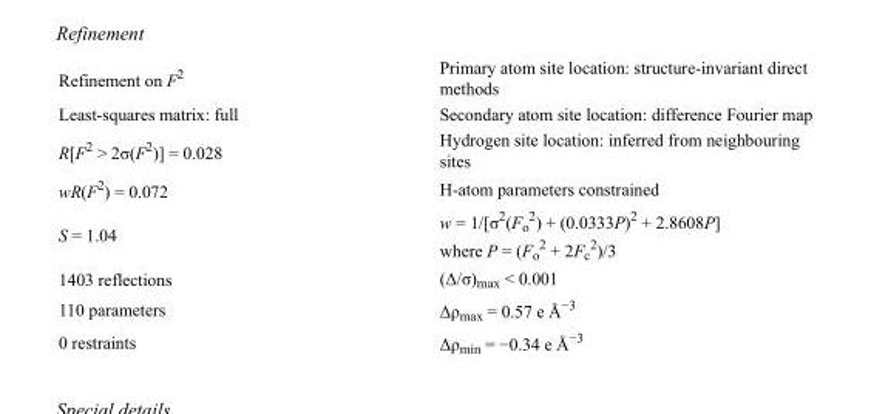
<table><tbody><tr><td>Refinement on F<sup>2</sup></td><td>Primary atom site location: structure-invariant direct methods</td></tr><tr><td>Least-squares matrix: full</td><td>Secondary atom site location: difference Fourier map</td></tr><tr><td>R[F<sup>2</sup> &gt; 2σ(F<sup>2</sup>)] = 0.028</td><td>Hydrogen site location: inferred from neighbouring sites</td></tr><tr><td>wR(F<sup>2</sup>) = 0.072</td><td>H-atom parameters constrained</td></tr><tr><td>S = 1.04</td><td>w = 1/[σ<sup>2</sup>(F<sub>o</sub> <sup>2</sup>) + (0.0333P)<sup>2</sup> + 2.8608P] where P = (F<sub>o</sub> <sup>2</sup> + 2F<sub>c</sub> <sup>2</sup>)/3</td></tr><tr><td>1403 reflections</td><td>(Δ/σ)<sub>max</sub> &lt; 0.001</td></tr><tr><td>110 parameters</td><td>Δρ<sub>max</sub> = 0.57 e Å<sup>−3</sup></td></tr><tr><td>0 restraints</td><td>Δρ<sub>min</sub> = −0.34 e Å<sup>−3</sup></td></tr></tbody></table>